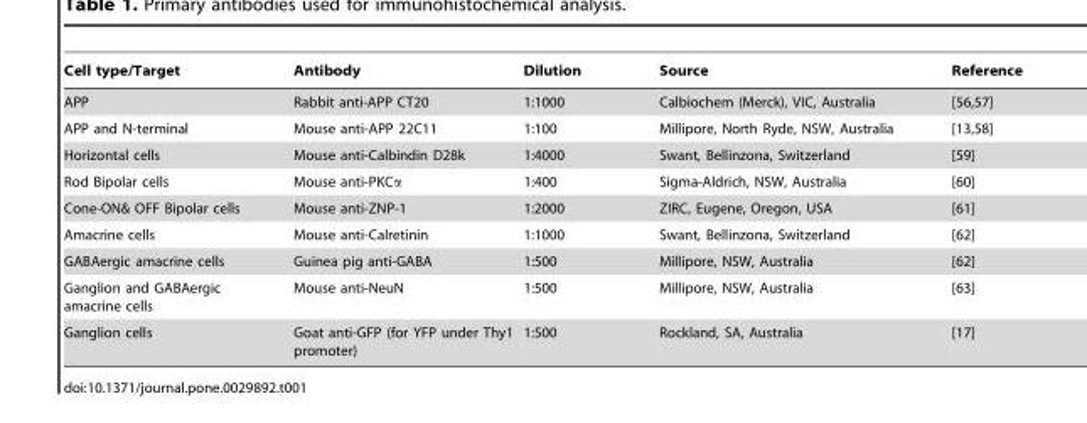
<table><thead><tr><td>Cell type/Target</td><td>Antibody</td><td>Dilution</td><td>Source</td><td>Reference</td></tr></thead><tbody><tr><td>APP</td><td>Rabbit anti-APP CT20</td><td>1:1000</td><td>Calbiochem (Merck), VIC, Australia</td><td>[56,57]</td></tr><tr><td>APP and N-terminal</td><td>Mouse anti-APP 22C11</td><td>1:100</td><td>Millipore, North Ryde, NSW, Australia</td><td>[13,58]</td></tr><tr><td>Horizontal cells</td><td>Mouse anti-Calbindin D28k</td><td>1:4000</td><td>Swant, Bellinzona, Switzerland</td><td>[59]</td></tr><tr><td>Rod Bipolar cells</td><td>Mouse anti-PKCα</td><td>1:400</td><td>Sigma-Aldrich, NSW, Australia</td><td>[60]</td></tr><tr><td>Cone-ON&amp; OFF Bipolar cells</td><td>Mouse anti-ZNP-1</td><td>1:2000</td><td>ZIRC, Eugene, Oregon, USA</td><td>[61]</td></tr><tr><td>Amacrine cells</td><td>Mouse anti-Calretinin</td><td>1:1000</td><td>Swant, Bellinzona, Switzerland</td><td>[62]</td></tr><tr><td>GABAergic amacrine cells</td><td>Guinea pig anti-GABA</td><td>1:500</td><td>Millipore, NSW, Australia</td><td>[62]</td></tr><tr><td>Ganglion and GABAergic amacrine cells</td><td>Mouse anti-NeuN</td><td>1:500</td><td>Millipore, NSW, Australia</td><td>[63]</td></tr><tr><td>Ganglion cells</td><td>Goat anti-GFP (for YFP under Thy1 promoter)</td><td>1:500</td><td>Rockland, SA, Australia</td><td>[17]</td></tr></tbody></table>